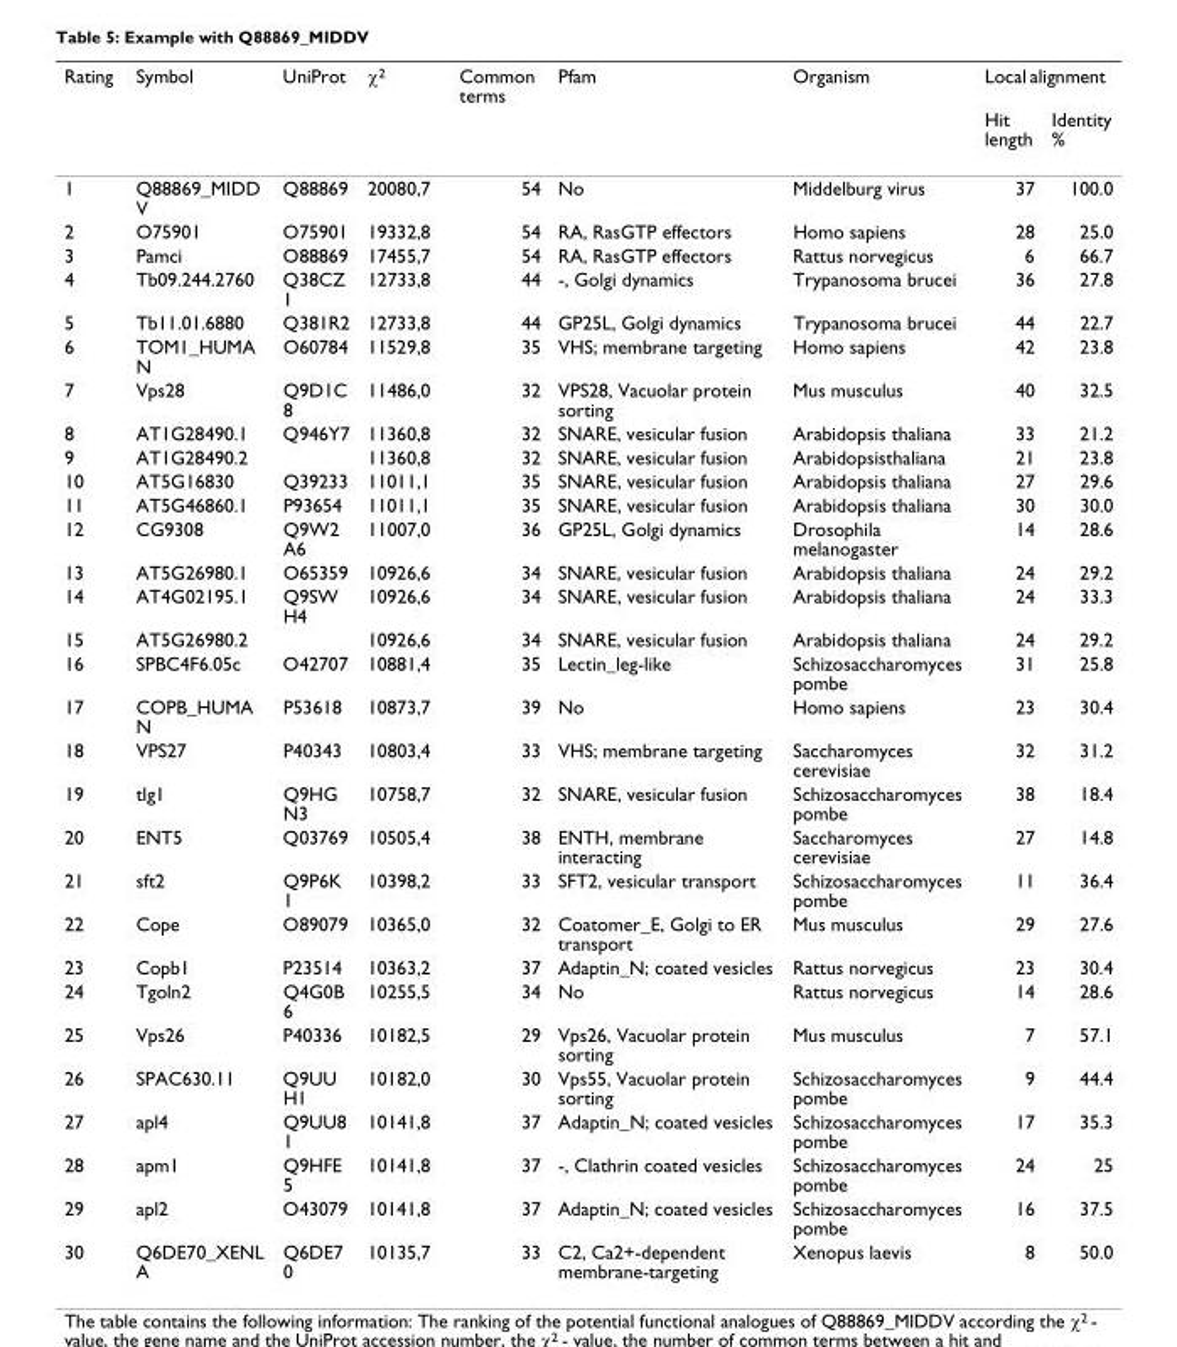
<table><thead><tr><td rowspan="2">Rating</td><td rowspan="2">Symbol</td><td rowspan="2">UniProt</td><td rowspan="2">χ<sup>2</sup></td><td rowspan="2">Common terms</td><td rowspan="2">Pfam</td><td rowspan="2">Organism</td><td colspan="2">Local alignment</td></tr><tr><td>Hit length</td><td>Identity %</td></tr></thead><tbody><tr><td>1</td><td>Q88869_MIDD V</td><td>Q88869</td><td>20080,7</td><td>54</td><td>No</td><td>Middelburg virus</td><td>37</td><td>100.0</td></tr><tr><td>2</td><td>O75901</td><td>O75901</td><td>19332,8</td><td>54</td><td>RA, RasGTP effectors</td><td>Homo sapiens</td><td>28</td><td>25.0</td></tr><tr><td>3</td><td>Pamci</td><td>O88869</td><td>17455,7</td><td>54</td><td>RA, RasGTP effectors</td><td>Rattus norvegicus</td><td>6</td><td>66.7</td></tr><tr><td>4</td><td>Tb09.244.2760</td><td>Q38CZ 1</td><td>12733,8</td><td>44</td><td>-, Golgi dynamics</td><td>Trypanosoma brucei</td><td>36</td><td>27.8</td></tr><tr><td>5</td><td>Tb11.01.6880</td><td>Q381R2</td><td>12733,8</td><td>44</td><td>GP25L, Golgi dynamics</td><td>Trypanosoma brucei</td><td>44</td><td>22.7</td></tr><tr><td>6</td><td>TOM1_HUMA N</td><td>O60784</td><td>11529,8</td><td>35</td><td>VHS; membrane targeting</td><td>Homo sapiens</td><td>42</td><td>23.8</td></tr><tr><td>7</td><td>Vps28</td><td>Q9D1C 8</td><td>11486,0</td><td>32</td><td>VPS28, Vacuolar protein sorting</td><td>Mus musculus</td><td>40</td><td>32.5</td></tr><tr><td>8</td><td>AT1G28490.1</td><td>Q946Y7</td><td>11360,8</td><td>32</td><td>SNARE, vesicular fusion</td><td>Arabidopsis thaliana</td><td>33</td><td>21.2</td></tr><tr><td>9</td><td>AT1G28490.2</td><td></td><td>11360,8</td><td>32</td><td>SNARE, vesicular fusion</td><td>Arabidopsisthaliana</td><td>21</td><td>23.8</td></tr><tr><td>10</td><td>AT5G16830</td><td>Q39233</td><td>11011,1</td><td>35</td><td>SNARE, vesicular fusion</td><td>Arabidopsis thaliana</td><td>27</td><td>29.6</td></tr><tr><td>11</td><td>AT5G46860.1</td><td>P93654</td><td>11011,1</td><td>35</td><td>SNARE, vesicular fusion</td><td>Arabidopsis thaliana</td><td>30</td><td>30.0</td></tr><tr><td>12</td><td>CG9308</td><td>Q9W2 A6</td><td>11007,0</td><td>36</td><td>GP25L, Golgi dynamics</td><td>Drosophila melanogaster</td><td>14</td><td>28.6</td></tr><tr><td>13</td><td>AT5G26980.1</td><td>O65359</td><td>10926,6</td><td>34</td><td>SNARE, vesicular fusion</td><td>Arabidopsis thaliana</td><td>24</td><td>29.2</td></tr><tr><td>14</td><td>AT4G02195.1</td><td>Q9SW H4</td><td>10926,6</td><td>34</td><td>SNARE, vesicular fusion</td><td>Arabidopsis thaliana</td><td>24</td><td>33.3</td></tr><tr><td>15</td><td>AT5G26980.2</td><td></td><td>10926,6</td><td>34</td><td>SNARE, vesicular fusion</td><td>Arabidopsis thaliana</td><td>24</td><td>29.2</td></tr><tr><td>16</td><td>SPBC4F6.05c</td><td>O42707</td><td>10881,4</td><td>35</td><td>Lectin_leg-like</td><td>Schizosaccharomyces pombe</td><td>31</td><td>25.8</td></tr><tr><td>17</td><td>COPB_HUMA N</td><td>P53618</td><td>10873,7</td><td>39</td><td>No</td><td>Homo sapiens</td><td>23</td><td>30.4</td></tr><tr><td>18</td><td>VPS27</td><td>P40343</td><td>10803,4</td><td>33</td><td>VHS; membrane targeting</td><td>Saccharomyces cerevisiae</td><td>32</td><td>31.2</td></tr><tr><td>19</td><td>tlg1</td><td>Q9HG N3</td><td>10758,7</td><td>32</td><td>SNARE, vesicular fusion</td><td>Schizosaccharomyces pombe</td><td>38</td><td>18.4</td></tr><tr><td>20</td><td>ENT5</td><td>Q03769</td><td>10505,4</td><td>38</td><td>ENTH, membrane interacting</td><td>Saccharomyces cerevisiae</td><td>27</td><td>14.8</td></tr><tr><td>21</td><td>sft2</td><td>Q9P6K 1</td><td>10398,2</td><td>33</td><td>SFT2, vesicular transport</td><td>Schizosaccharomyces pombe</td><td>11</td><td>36.4</td></tr><tr><td>22</td><td>Cope</td><td>O89079</td><td>10365,0</td><td>32</td><td>Coatomer_E, Golgi to ER transport</td><td>Mus musculus</td><td>29</td><td>27.6</td></tr><tr><td>23</td><td>Copb1</td><td>P23514</td><td>10363,2</td><td>37</td><td>Adaptin_N; coated vesicles</td><td>Rattus norvegicus</td><td>23</td><td>30.4</td></tr><tr><td>24</td><td>Tgoln2</td><td>Q4G0B 6</td><td>10255,5</td><td>34</td><td>No</td><td>Rattus norvegicus</td><td>14</td><td>28.6</td></tr><tr><td>25</td><td>Vps26</td><td>P40336</td><td>10182,5</td><td>29</td><td>Vps26, Vacuolar protein sorting</td><td>Mus musculus</td><td>7</td><td>57.1</td></tr><tr><td>26</td><td>SPAC630.11</td><td>Q9UU H1</td><td>10182,0</td><td>30</td><td>Vps55, Vacuolar protein sorting</td><td>Schizosaccharomyces pombe</td><td>9</td><td>44.4</td></tr><tr><td>27</td><td>apl4</td><td>Q9UU8 1</td><td>10141,8</td><td>37</td><td>Adaptin_N; coated vesicles</td><td>Schizosaccharomyces pombe</td><td>17</td><td>35.3</td></tr><tr><td>28</td><td>apm1</td><td>Q9HFE 5</td><td>10141,8</td><td>37</td><td>-, Clathrin coated vesicles</td><td>Schizosaccharomyces pombe</td><td>24</td><td>25</td></tr><tr><td>29</td><td>apl2</td><td>O43079</td><td>10141,8</td><td>37</td><td>Adaptin_N; coated vesicles</td><td>Schizosaccharomyces pombe</td><td>16</td><td>37.5</td></tr><tr><td>30</td><td>Q6DE70_XENL A</td><td>Q6DE7 0</td><td>10135,7</td><td>33</td><td>C2, Ca2+-dependent membrane-targeting</td><td>Xenopus laevis</td><td>8</td><td>50.0</td></tr></tbody></table>